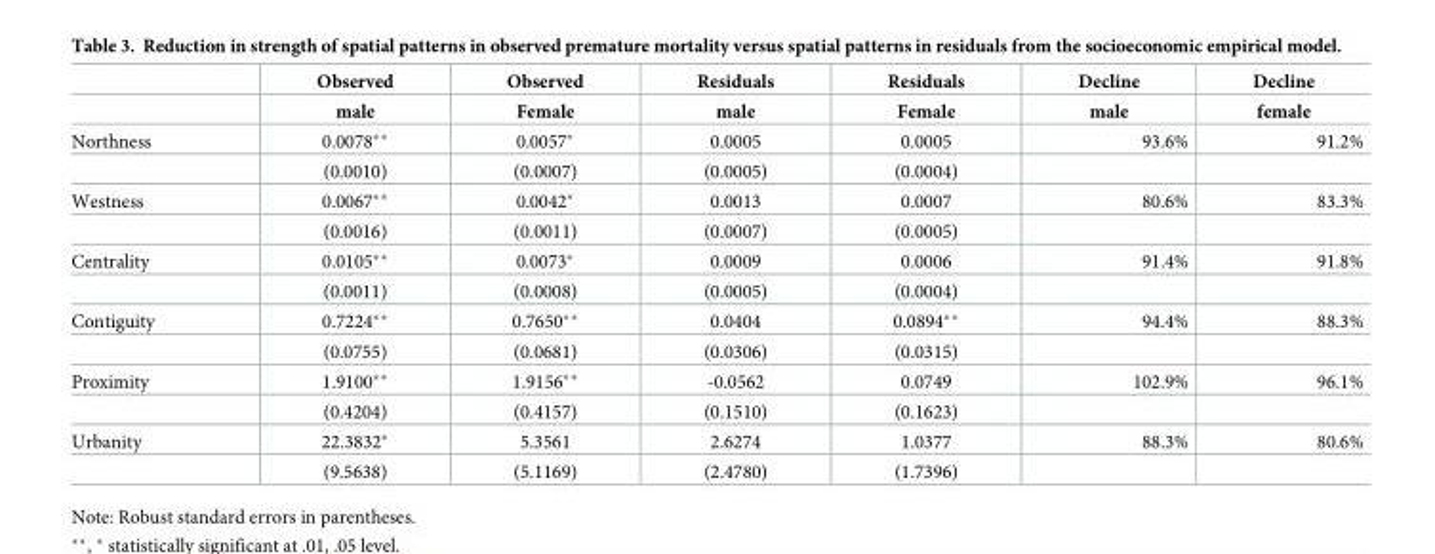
<table><thead><tr><td rowspan="2"></td><td rowspan="2">Observed male</td><td rowspan="2">Observed Female</td><td rowspan="2">Residuals male</td><td rowspan="2">Residuals Female</td><td rowspan="2">Decline male</td><td rowspan="2">Decline female</td></tr><tr></tr></thead><tbody><tr><td rowspan="2">Northness</td><td>0.0078**</td><td>0.0057*</td><td>0.0005</td><td>0.0005</td><td>93.6%</td><td>91.2%</td></tr><tr><td>(0.0010)</td><td>(0.0007)</td><td>(0.0005)</td><td>(0.0004)</td><td></td><td></td></tr><tr><td rowspan="2">Westness</td><td>0.0067**</td><td>0.0042*</td><td>0.0013</td><td>0.0007</td><td>80.6%</td><td>83.3%</td></tr><tr><td>(0.0016)</td><td>(0.0011)</td><td>(0.0007)</td><td>(0.0005)</td><td></td><td></td></tr><tr><td rowspan="2">Centrality</td><td>0.0105**</td><td>0.0073*</td><td>0.0009</td><td>0.0006</td><td>91.4%</td><td>91.8%</td></tr><tr><td>(0.0011)</td><td>(0.0008)</td><td>(0.0005)</td><td>(0.0004)</td><td></td><td></td></tr><tr><td rowspan="2">Contiguity</td><td>0.7224**</td><td>0.7650**</td><td>0.0404</td><td>0.0894**</td><td>94.4%</td><td>88.3%</td></tr><tr><td>(0.0755)</td><td>(0.0681)</td><td>(0.0306)</td><td>(0.0315)</td><td></td><td></td></tr><tr><td rowspan="2">Proximity</td><td>1.9100**</td><td>1.9156**</td><td>-0.0562</td><td>0.0749</td><td>102.9%</td><td>96.1%</td></tr><tr><td>(0.4204)</td><td>(0.4157)</td><td>(0.1510)</td><td>(0.1623)</td><td></td><td></td></tr><tr><td rowspan="2">Urbanity</td><td>22.3832*</td><td>5.3561</td><td>2.6274</td><td>1.0377</td><td>88.3%</td><td>80.6%</td></tr><tr><td>(9.5638)</td><td>(5.1169)</td><td>(2.4780)</td><td>(1.7396)</td><td></td><td></td></tr></tbody></table>